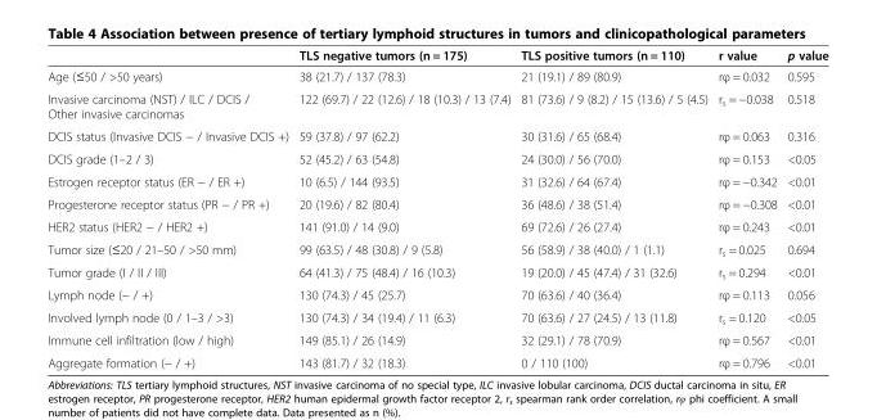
<table><thead><tr><td></td><td>TLS negative tumors (n = 175)</td><td>TLS positive tumors (n = 110)</td><td>r value</td><td>p value</td></tr></thead><tbody><tr><td>Age (≤50 / &gt;50 years)</td><td>38 (21.7) / 137 (78.3)</td><td>21 (19.1) / 89 (80.9)</td><td>rφ = 0.032</td><td>0.595</td></tr><tr><td>Invasive carcinoma (NST) / ILC / DCIS / Other invasive carcinomas</td><td>122 (69.7) / 22 (12.6) / 18 (10.3) / 13 (7.4)</td><td>81 (73.6) / 9 (8.2) / 15 (13.6) / 5 (4.5)</td><td>r<sub>s</sub> = −0.038</td><td>0.518</td></tr><tr><td>DCIS status (Invasive DCIS − / Invasive DCIS +)</td><td>59 (37.8) / 97 (62.2)</td><td>30 (31.6) / 65 (68.4)</td><td>rφ = 0.063</td><td>0.316</td></tr><tr><td>DCIS grade (1–2 / 3)</td><td>52 (45.2) / 63 (54.8)</td><td>24 (30.0) / 56 (70.0)</td><td>rφ = 0.153</td><td>&lt;0.05</td></tr><tr><td>Estrogen receptor status (ER − / ER +)</td><td>10 (6.5) / 144 (93.5)</td><td>31 (32.6) / 64 (67.4)</td><td>rφ = −0.342</td><td>&lt;0.01</td></tr><tr><td>Progesterone receptor status (PR − / PR +)</td><td>20 (19.6) / 82 (80.4)</td><td>36 (48.6) / 38 (51.4)</td><td>rφ = −0.308</td><td>&lt;0.01</td></tr><tr><td>HER2 status (HER2 − / HER2 +)</td><td>141 (91.0) / 14 (9.0)</td><td>69 (72.6) / 26 (27.4)</td><td>rφ = 0.243</td><td>&lt;0.01</td></tr><tr><td>Tumor size (≤20 / 21–50 / &gt;50 mm)</td><td>99 (63.5) / 48 (30.8) / 9 (5.8)</td><td>56 (58.9) / 38 (40.0) / 1 (1.1)</td><td>r<sub>s</sub> = 0.025</td><td>0.694</td></tr><tr><td>Tumor grade (I / II / III)</td><td>64 (41.3) / 75 (48.4) / 16 (10.3)</td><td>19 (20.0) / 45 (47.4) / 31 (32.6)</td><td>r<sub>s</sub> = 0.294</td><td>&lt;0.01</td></tr><tr><td>Lymph node (− / +)</td><td>130 (74.3) / 45 (25.7)</td><td>70 (63.6) / 40 (36.4)</td><td>rφ = 0.113</td><td>0.056</td></tr><tr><td>Involved lymph node (0 / 1–3 / &gt;3)</td><td>130 (74.3) / 34 (19.4) / 11 (6.3)</td><td>70 (63.6) / 27 (24.5) / 13 (11.8)</td><td>r<sub>s</sub> = 0.120</td><td>&lt;0.05</td></tr><tr><td>Immune cell infiltration (low / high)</td><td>149 (85.1) / 26 (14.9)</td><td>32 (29.1) / 78 (70.9)</td><td>rφ = 0.567</td><td>&lt;0.01</td></tr><tr><td>Aggregate formation (− / +)</td><td>143 (81.7) / 32 (18.3)</td><td>0 / 110 (100)</td><td>rφ = 0.796</td><td>&lt;0.01</td></tr></tbody></table>